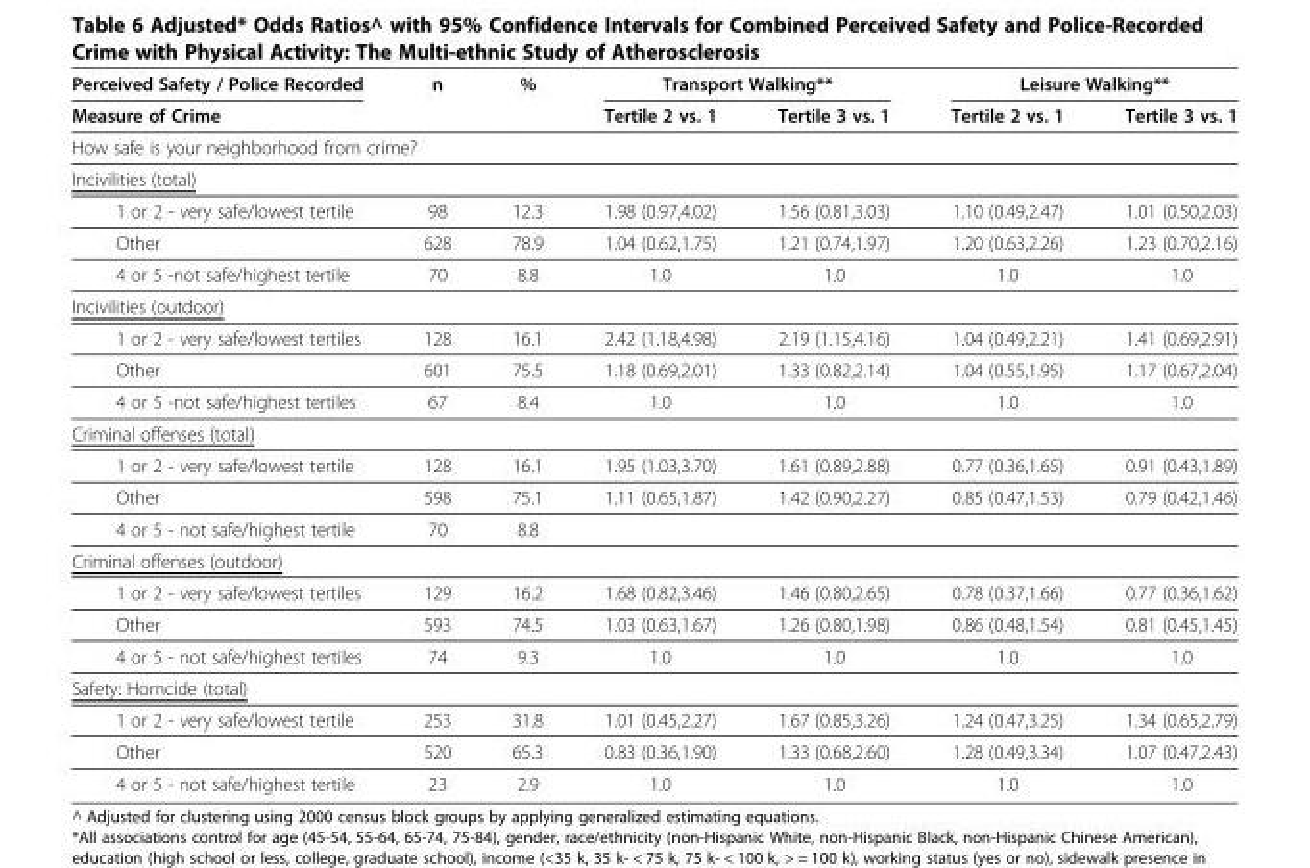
<table><thead><tr><td rowspan="2">Perceived Safety / Police Recorded Measure of Crime</td><td rowspan="2">n</td><td rowspan="2">%</td><td colspan="2">Transport Walking**</td><td colspan="2">Leisure Walking**</td></tr><tr><td>Tertile 2 vs. 1</td><td>Tertile 3 vs. 1</td><td>Tertile 2 vs. 1</td><td>Tertile 3 vs. 1</td></tr></thead><tbody><tr><td colspan="7">How safe is your neighborhood from crime?</td></tr><tr><td colspan="7">Incivilities (total)</td></tr><tr><td>1 or 2 - very safe/lowest tertile</td><td>98</td><td>12.3</td><td>1.98 (0.97,4.02)</td><td>1.56 (0.81,3.03)</td><td>1.10 (0.49,2.47)</td><td>1.01 (0.50,2.03)</td></tr><tr><td>Other</td><td>628</td><td>78.9</td><td>1.04 (0.62,1.75)</td><td>1.21 (0.74,1.97)</td><td>1.20 (0.63,2.26)</td><td>1.23 (0.70,2.16)</td></tr><tr><td>4 or 5 -not safe/highest tertile</td><td>70</td><td>8.8</td><td>1.0</td><td>1.0</td><td>1.0</td><td>1.0</td></tr><tr><td colspan="7">Incivilities (outdoor)</td></tr><tr><td>1 or 2 - very safe/lowest tertiles</td><td>128</td><td>16.1</td><td>2.42 (1.18,4.98)</td><td>2.19 (1.15,4.16)</td><td>1.04 (0.49,2.21)</td><td>1.41 (0.69,2.91)</td></tr><tr><td>Other</td><td>601</td><td>75.5</td><td>1.18 (0.69,2.01)</td><td>1.33 (0.82,2.14)</td><td>1.04 (0.55,1.95)</td><td>1.17 (0.67,2.04)</td></tr><tr><td>4 or 5 -not safe/highest tertiles</td><td>67</td><td>8.4</td><td>1.0</td><td>1.0</td><td>1.0</td><td>1.0</td></tr><tr><td colspan="7">Criminal offenses (total)</td></tr><tr><td>1 or 2 - very safe/lowest tertile</td><td>128</td><td>16.1</td><td>1.95 (1.03,3.70)</td><td>1.61 (0.89,2.88)</td><td>0.77 (0.36,1.65)</td><td>0.91 (0.43,1.89)</td></tr><tr><td>Other</td><td>598</td><td>75.1</td><td>1.11 (0.65,1.87)</td><td>1.42 (0.90,2.27)</td><td>0.85 (0.47,1.53)</td><td>0.79 (0.42,1.46)</td></tr><tr><td>4 or 5 - not safe/highest tertile</td><td>70</td><td>8.8</td><td></td><td></td><td></td><td></td></tr><tr><td colspan="7">Criminal offenses (outdoor)</td></tr><tr><td>1 or 2 - very safe/lowest tertiles</td><td>129</td><td>16.2</td><td>1.68 (0.82,3.46)</td><td>1.46 (0.80,2.65)</td><td>0.78 (0.37,1.66)</td><td>0.77 (0.36,1.62)</td></tr><tr><td>Other</td><td>593</td><td>74.5</td><td>1.03 (0.63,1.67)</td><td>1.26 (0.80,1.98)</td><td>0.86 (0.48,1.54)</td><td>0.81 (0.45,1.45)</td></tr><tr><td>4 or 5 - not safe/highest tertiles</td><td>74</td><td>9.3</td><td>1.0</td><td>1.0</td><td>1.0</td><td>1.0</td></tr><tr><td colspan="7">Safety: Homcide (total)</td></tr><tr><td>1 or 2 - very safe/lowest tertile</td><td>253</td><td>31.8</td><td>1.01 (0.45,2.27)</td><td>1.67 (0.85,3.26)</td><td>1.24 (0.47,3.25)</td><td>1.34 (0.65,2.79)</td></tr><tr><td>Other</td><td>520</td><td>65.3</td><td>0.83 (0.36,1.90)</td><td>1.33 (0.68,2.60)</td><td>1.28 (0.49,3.34)</td><td>1.07 (0.47,2.43)</td></tr><tr><td>4 or 5 - not safe/highest tertile</td><td>23</td><td>2.9</td><td>1.0</td><td>1.0</td><td>1.0</td><td>1.0</td></tr></tbody></table>